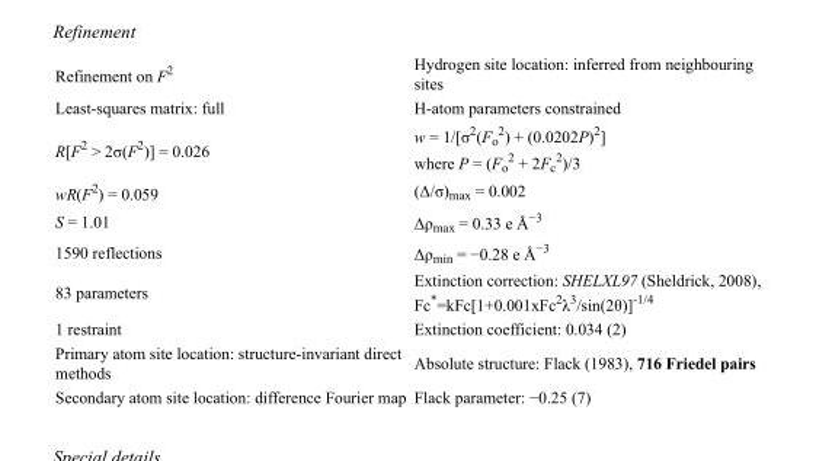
<table><tbody><tr><td>Refinement on F<sup>2</sup></td><td>Hydrogen site location: inferred from neighbouring sites</td></tr><tr><td>Least-squares matrix: full</td><td>H-atom parameters constrained</td></tr><tr><td>R[F<sup>2</sup> &gt; 2σ(F<sup>2</sup>)] = 0.026</td><td>w = 1/[σ<sup>2</sup>(F<sub>o</sub> <sup>2</sup>) + (0.0202P)<sup>2</sup>] where P = (F<sub>o</sub> <sup>2</sup> + 2F<sub>c</sub> <sup>2</sup>)/3</td></tr><tr><td>wR(F<sup>2</sup>) = 0.059</td><td>(Δ/σ)<sub>max</sub> = 0.002</td></tr><tr><td>S = 1.01</td><td>Δρ<sub>max</sub> = 0.33 e Å<sup>−3</sup></td></tr><tr><td>1590 reflections</td><td>Δρ<sub>min</sub> = −0.28 e Å<sup>−3</sup></td></tr><tr><td>83 parameters</td><td>Extinction correction: SHELXL97 (Sheldrick, 2008), Fc*=kFc[1+0.001xFc<sup>2</sup>λ<sup>3</sup>/sin(2θ)]<sup>-1/4</sup></td></tr><tr><td>1 restraint</td><td>Extinction coefficient: 0.034 (2)</td></tr><tr><td>Primary atom site location: structure-invariant direct methods</td><td>Absolute structure: Flack (1983), 716 Friedel pairs</td></tr><tr><td>Secondary atom site location: difference Fourier map</td><td>Flack parameter: −0.25 (7)</td></tr></tbody></table>